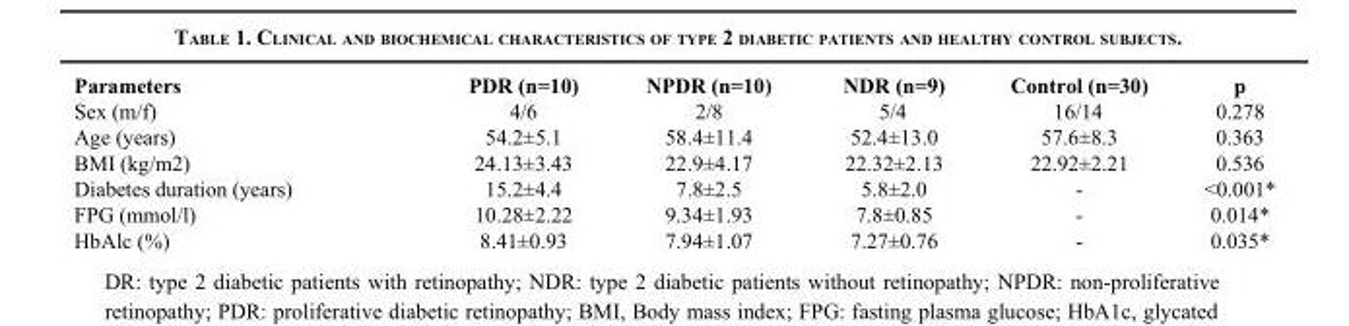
<table><thead><tr><td>Parameters</td><td>PDR (n=10)</td><td>NPDR (n=10)</td><td>NDR (n=9)</td><td>Control (n=30)</td><td>p</td></tr></thead><tbody><tr><td>Sex (m/f)</td><td>4/6</td><td>2/8</td><td>5/4</td><td>16/14</td><td>0.278</td></tr><tr><td>Age (years)</td><td>54.2±5.1</td><td>58.4±11.4</td><td>52.4±13.0</td><td>57.6±8.3</td><td>0.363</td></tr><tr><td>BMI (kg/m2)</td><td>24.13±3.43</td><td>22.9±4.17</td><td>22.32±2.13</td><td>22.92±2.21</td><td>0.536</td></tr><tr><td>Diabetes duration (years)</td><td>15.2±4.4</td><td>7.8±2.5</td><td>5.8±2.0</td><td>-</td><td>&lt;0.001*</td></tr><tr><td>FPG (mmol/l)</td><td>10.28±2.22</td><td>9.34±1.93</td><td>7.8±0.85</td><td>-</td><td>0.014*</td></tr><tr><td>HbAlc (%)</td><td>8.41±0.93</td><td>7.94±1.07</td><td>7.27±0.76</td><td>-</td><td>0.035*</td></tr></tbody></table>